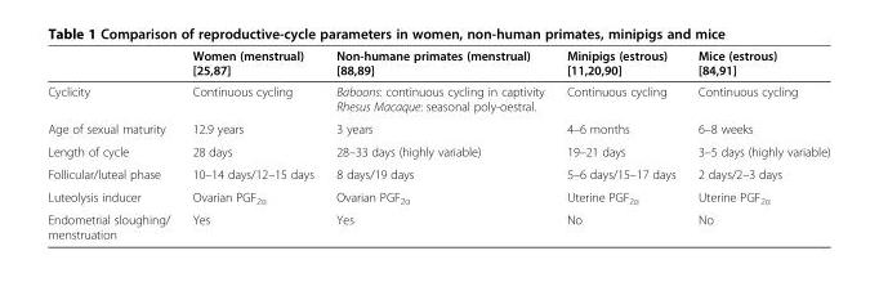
<table><thead><tr><td></td><td>Women (menstrual) [25,87]</td><td>Non-humane primates (menstrual) [88,89]</td><td>Minipigs (estrous) [11,20,90]</td><td>Mice (estrous) [84,91]</td></tr></thead><tbody><tr><td>Cyclicity</td><td>Continuous cycling</td><td>Baboons: continuous cycling in captivity Rhesus Macaque: seasonal poly-oestral.</td><td>Continuous cycling</td><td>Continuous cycling</td></tr><tr><td>Age of sexual maturity</td><td>12.9 years</td><td>3 years</td><td>4–6 months</td><td>6–8 weeks</td></tr><tr><td>Length of cycle</td><td>28 days</td><td>28–33 days (highly variable)</td><td>19–21 days</td><td>3–5 days (highly variable)</td></tr><tr><td>Follicular/luteal phase</td><td>10–14 days/12–15 days</td><td>8 days/19 days</td><td>5–6 days/15–17 days</td><td>2 days/2–3 days</td></tr><tr><td>Luteolysis inducer</td><td>Ovarian PGF<sub>2α</sub></td><td>Ovarian PGF<sub>2α</sub></td><td>Uterine PGF<sub>2α</sub></td><td>Uterine PGF<sub>2α</sub></td></tr><tr><td>Endometrial sloughing/ menstruation</td><td>Yes</td><td>Yes</td><td>No</td><td>No</td></tr></tbody></table>